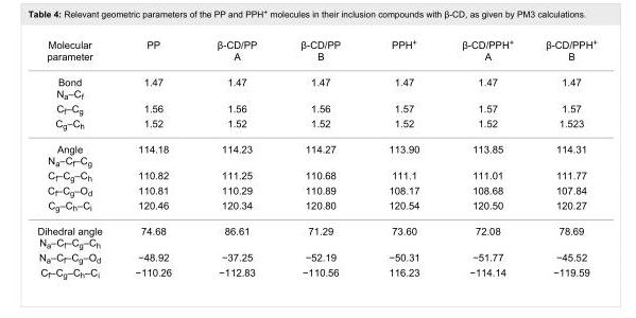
<table><tbody><tr><td>Molecular parameter</td><td>PP</td><td>β-CD/PP A</td><td>β-CD/PP B</td><td>PPH<sup>+</sup></td><td>β-CD/PPH<sup>+</sup> A</td><td>β-CD/PPH<sup>+</sup> B</td></tr><tr><td>Bond N<sub>a</sub>–C<sub>f</sub></td><td>1.47</td><td>1.47</td><td>1.47</td><td>1.47</td><td>1.47</td><td>1.47</td></tr><tr><td>C<sub>f</sub>–C<sub>g</sub></td><td>1.56</td><td>1.56</td><td>1.56</td><td>1.57</td><td>1.57</td><td>1.57</td></tr><tr><td>C<sub>g</sub>–C<sub>h</sub></td><td>1.52</td><td>1.52</td><td>1.52</td><td>1.52</td><td>1.52</td><td>1.523</td></tr><tr><td>Angle N<sub>a</sub>–C<sub>f</sub>–C<sub>g</sub></td><td>114.18</td><td>114.23</td><td>114.27</td><td>113.90</td><td>113.85</td><td>114.31</td></tr><tr><td>C<sub>f</sub>–C<sub>g</sub>–C<sub>h</sub></td><td>110.82</td><td>111.25</td><td>110.68</td><td>111.1</td><td>111.01</td><td>111.77</td></tr><tr><td>C<sub>f</sub>–C<sub>g</sub>–O<sub>d</sub></td><td>110.81</td><td>110.29</td><td>110.89</td><td>108.17</td><td>108.68</td><td>107.84</td></tr><tr><td>C<sub>g</sub>–C<sub>h</sub>–C<sub>i</sub></td><td>120.46</td><td>120.34</td><td>120.80</td><td>120.54</td><td>120.50</td><td>120.27</td></tr><tr><td>Dihedral angle N<sub>a</sub>–C<sub>f</sub>–C<sub>g</sub>–C<sub>h</sub></td><td>74.68</td><td>86.61</td><td>71.29</td><td>73.60</td><td>72.08</td><td>78.69</td></tr><tr><td>N<sub>a</sub>–C<sub>f</sub>–C<sub>g</sub>–O<sub>d</sub></td><td>−48.92</td><td>−37.25</td><td>−52.19</td><td>−50.31</td><td>−51.77</td><td>−45.52</td></tr><tr><td>C<sub>f</sub>–C<sub>g</sub>–C<sub>h</sub>–C<sub>i</sub></td><td>−110.26</td><td>−112.83</td><td>−110.56</td><td>116.23</td><td>−114.14</td><td>−119.59</td></tr></tbody></table>